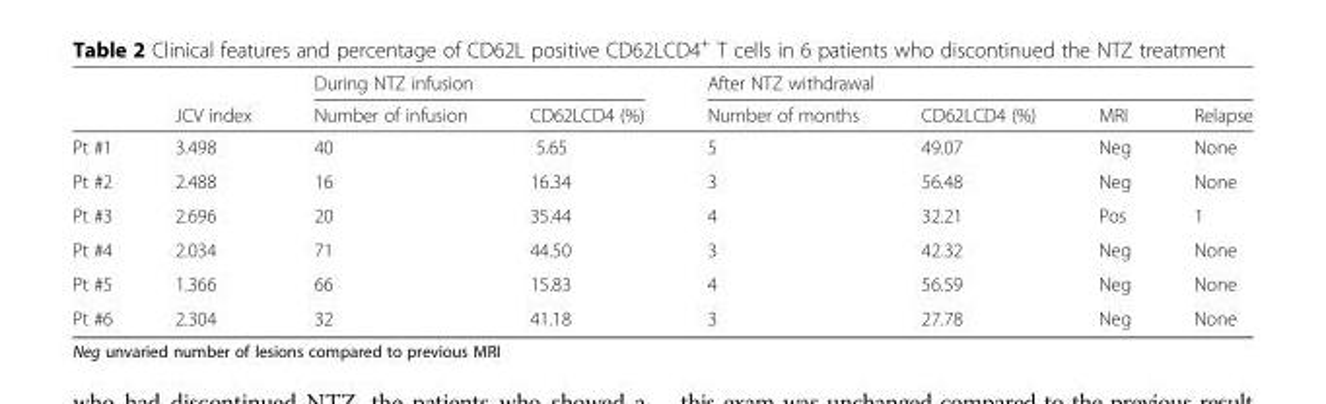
<table><thead><tr><td rowspan="2"></td><td rowspan="2">JCV index</td><td colspan="2">During NTZ infusion</td><td colspan="4">After NTZ withdrawal</td></tr><tr><td>Number of infusion</td><td>CD62LCD4 (%)</td><td>Number of months</td><td>CD62LCD4 (%)</td><td>MRI</td><td>Relapse</td></tr></thead><tbody><tr><td>Pt #1</td><td>3.498</td><td>40</td><td>5.65</td><td>5</td><td>49.07</td><td>Neg</td><td>None</td></tr><tr><td>Pt #2</td><td>2.488</td><td>16</td><td>16.34</td><td>3</td><td>56.48</td><td>Neg</td><td>None</td></tr><tr><td>Pt #3</td><td>2.696</td><td>20</td><td>35.44</td><td>4</td><td>32.21</td><td>Pos</td><td>1</td></tr><tr><td>Pt #4</td><td>2.034</td><td>71</td><td>44.50</td><td>3</td><td>42.32</td><td>Neg</td><td>None</td></tr><tr><td>Pt #5</td><td>1.366</td><td>66</td><td>15.83</td><td>4</td><td>56.59</td><td>Neg</td><td>None</td></tr><tr><td>Pt #6</td><td>2.304</td><td>32</td><td>41.18</td><td>3</td><td>27.78</td><td>Neg</td><td>None</td></tr></tbody></table>